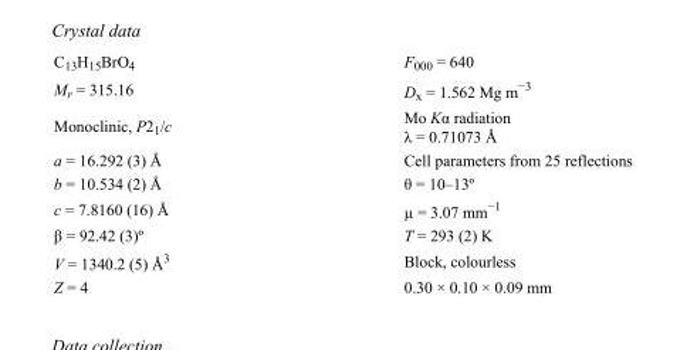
<table><tbody><tr><td>C<sub>13</sub>H<sub>15</sub>BrO<sub>4</sub></td><td>F<sub>000</sub> = 640</td></tr><tr><td>M<sub>r</sub> = 315.16</td><td>D<sub>x</sub> = 1.562 Mg m<sup>−3</sup></td></tr><tr><td>Monoclinic, P2<sub>1</sub>/c</td><td>Mo Kα radiation λ = 0.71073 Å</td></tr><tr><td>a = 16.292 (3) Å</td><td>Cell parameters from 25 reflections</td></tr><tr><td>b = 10.534 (2) Å</td><td>θ = 10–13º</td></tr><tr><td>c = 7.8160 (16) Å</td><td>µ = 3.07 mm<sup>−1</sup></td></tr><tr><td>β = 92.42 (3)º</td><td>T = 293 (2) K</td></tr><tr><td>V = 1340.2 (5) Å<sup>3</sup></td><td>Block, colourless</td></tr><tr><td>Z = 4</td><td>0.30 × 0.10 × 0.09 mm</td></tr></tbody></table>